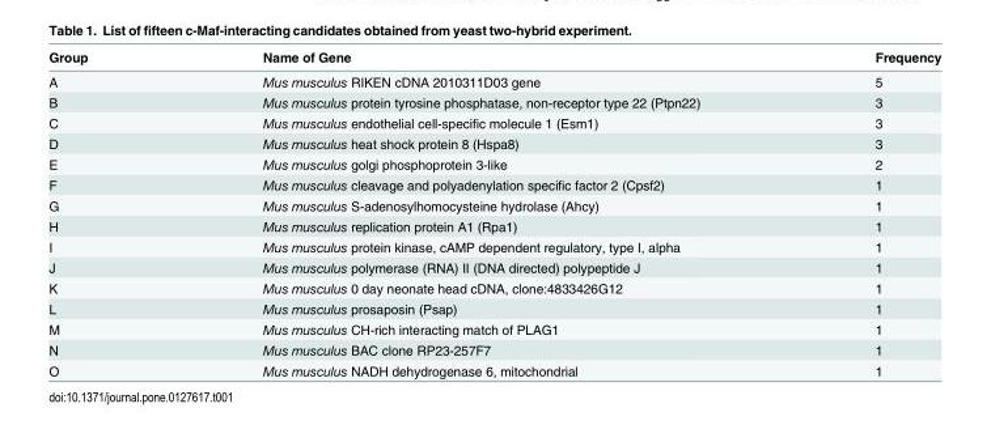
<table><thead><tr><td>Group</td><td>Name of Gene</td><td>Frequency</td></tr></thead><tbody><tr><td>A</td><td>Mus musculus RIKEN cDNA 2010311D03 gene</td><td>5</td></tr><tr><td>B</td><td>Mus musculus protein tyrosine phosphatase, non-receptor type 22 (Ptpn22)</td><td>3</td></tr><tr><td>C</td><td>Mus musculus endothelial cell-specific molecule 1 (Esm1)</td><td>3</td></tr><tr><td>D</td><td>Mus musculus heat shock protein 8 (Hspa8)</td><td>3</td></tr><tr><td>E</td><td>Mus musculus golgi phosphoprotein 3-like</td><td>2</td></tr><tr><td>F</td><td>Mus musculus cleavage and polyadenylation specific factor 2 (Cpsf2)</td><td>1</td></tr><tr><td>G</td><td>Mus musculus S-adenosylhomocysteine hydrolase (Ahcy)</td><td>1</td></tr><tr><td>H</td><td>Mus musculus replication protein A1 (Rpa1)</td><td>1</td></tr><tr><td>I</td><td>Mus musculus protein kinase, cAMP dependent regulatory, type I, alpha</td><td>1</td></tr><tr><td>J</td><td>Mus musculus polymerase (RNA) II (DNA directed) polypeptide J</td><td>1</td></tr><tr><td>K</td><td>Mus musculus 0 day neonate head cDNA, clone:4833426G12</td><td>1</td></tr><tr><td>L</td><td>Mus musculus prosaposin (Psap)</td><td>1</td></tr><tr><td>M</td><td>Mus musculus CH-rich interacting match of PLAG1</td><td>1</td></tr><tr><td>N</td><td>Mus musculus BAC clone RP23-257F7</td><td>1</td></tr><tr><td>O</td><td>Mus musculus NADH dehydrogenase 6, mitochondrial</td><td>1</td></tr></tbody></table>